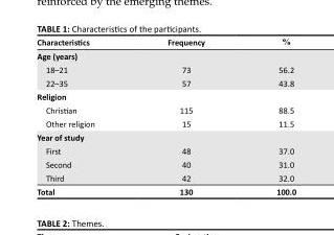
<table><thead><tr><td>Characteristics</td><td>Frequency</td><td>%</td></tr></thead><tbody><tr><td colspan="3">Age (years)</td></tr><tr><td>18–21</td><td>73</td><td>56.2</td></tr><tr><td>22–35</td><td>57</td><td>43.8</td></tr><tr><td colspan="3">Religion</td></tr><tr><td>Christian</td><td>115</td><td>88.5</td></tr><tr><td>Other religion</td><td>15</td><td>11.5</td></tr><tr><td colspan="3">Year of study</td></tr><tr><td>First</td><td>48</td><td>37.0</td></tr><tr><td>Second</td><td>40</td><td>31.0</td></tr><tr><td>Third</td><td>42</td><td>32.0</td></tr><tr><td>Total</td><td>130</td><td>100.0</td></tr></tbody></table>